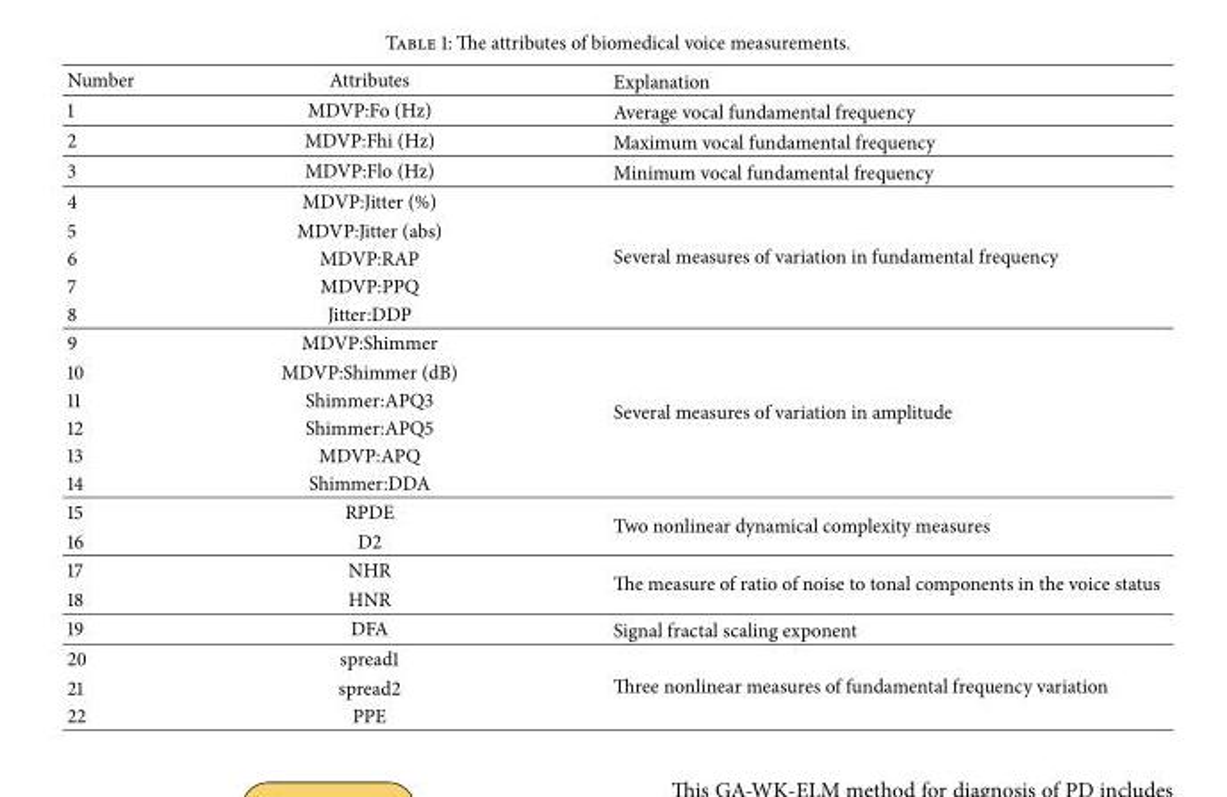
<table><thead><tr><td>Number</td><td>Attributes</td><td>Explanation</td></tr></thead><tbody><tr><td>1</td><td>MDVP:Fo (Hz)</td><td>Average vocal fundamental frequency</td></tr><tr><td>2</td><td>MDVP:Fhi (Hz)</td><td>Maximum vocal fundamental frequency</td></tr><tr><td>3</td><td>MDVP:Flo (Hz)</td><td>Minimum vocal fundamental frequency</td></tr><tr><td>4</td><td>MDVP:Jitter (%)</td><td rowspan="5">Several measures of variation in fundamental frequency</td></tr><tr><td>5</td><td>MDVP:Jitter (abs)</td></tr><tr><td>6</td><td>MDVP:RAP</td></tr><tr><td>7</td><td>MDVP:PPQ</td></tr><tr><td>8</td><td>Jitter:DDP</td></tr><tr><td>9</td><td>MDVP:Shimmer</td><td rowspan="6">Several measures of variation in amplitude</td></tr><tr><td>10</td><td>MDVP:Shimmer (dB)</td></tr><tr><td>11</td><td>Shimmer:APQ3</td></tr><tr><td>12</td><td>Shimmer:APQ5</td></tr><tr><td>13</td><td>MDVP:APQ</td></tr><tr><td>14</td><td>Shimmer:DDA</td></tr><tr><td>15</td><td>RPDE</td><td rowspan="2">Two nonlinear dynamical complexity measures</td></tr><tr><td>16</td><td>D2</td></tr><tr><td>17</td><td>NHR</td><td rowspan="2">The measure of ratio of noise to tonal components in the voice status</td></tr><tr><td>18</td><td>HNR</td></tr><tr><td>19</td><td>DFA</td><td>Signal fractal scaling exponent</td></tr><tr><td>20</td><td>spread1</td><td rowspan="3">Three nonlinear measures of fundamental frequency variation</td></tr><tr><td>21</td><td>spread2</td></tr><tr><td>22</td><td>PPE</td></tr></tbody></table>